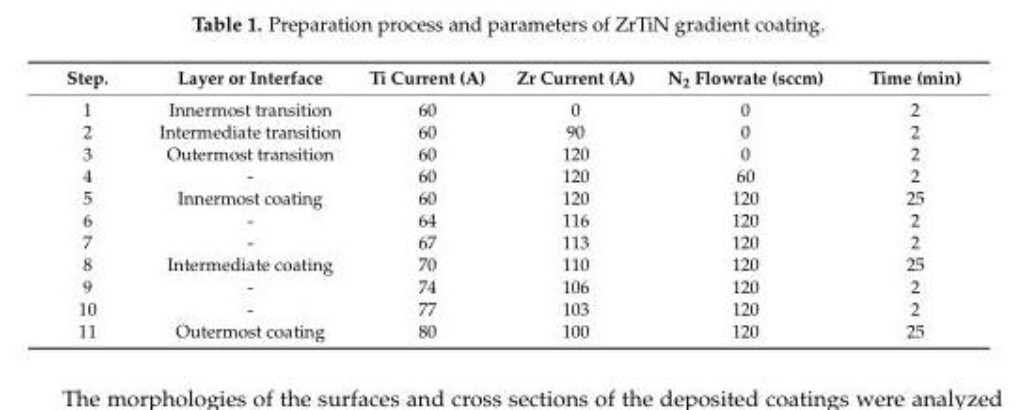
<table><thead><tr><td>Step.</td><td>Layer or Interface</td><td>Ti Current (A)</td><td>Zr Current (A)</td><td>N<sub>2</sub> Flowrate (sccm)</td><td>Time (min)</td></tr></thead><tbody><tr><td>1</td><td>Innermost transition</td><td>60</td><td>0</td><td>0</td><td>2</td></tr><tr><td>2</td><td>Intermediate transition</td><td>60</td><td>90</td><td>0</td><td>2</td></tr><tr><td>3</td><td>Outermost transition</td><td>60</td><td>120</td><td>0</td><td>2</td></tr><tr><td>4</td><td>-</td><td>60</td><td>120</td><td>60</td><td>2</td></tr><tr><td>5</td><td>Innermost coating</td><td>60</td><td>120</td><td>120</td><td>25</td></tr><tr><td>6</td><td>-</td><td>64</td><td>116</td><td>120</td><td>2</td></tr><tr><td>7</td><td>-</td><td>67</td><td>113</td><td>120</td><td>2</td></tr><tr><td>8</td><td>Intermediate coating</td><td>70</td><td>110</td><td>120</td><td>25</td></tr><tr><td>9</td><td>-</td><td>74</td><td>106</td><td>120</td><td>2</td></tr><tr><td>10</td><td>-</td><td>77</td><td>103</td><td>120</td><td>2</td></tr><tr><td>11</td><td>Outermost coating</td><td>80</td><td>100</td><td>120</td><td>25</td></tr></tbody></table>